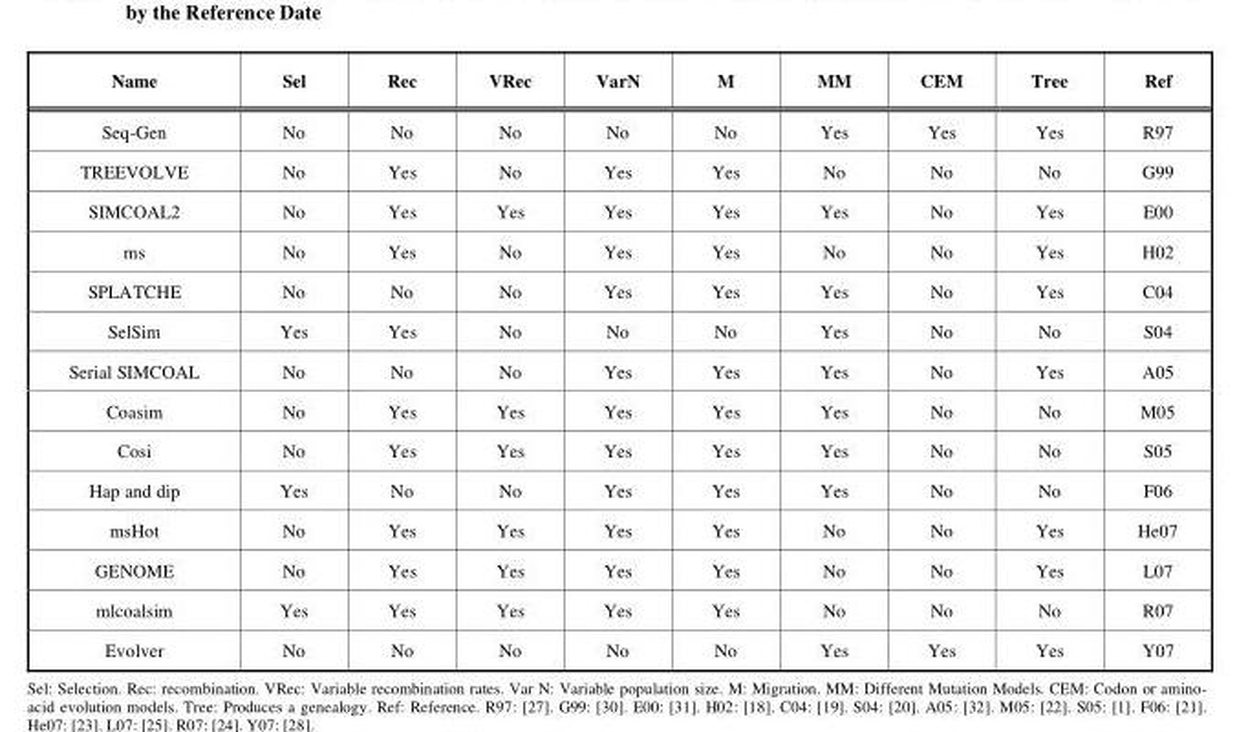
<table><thead><tr><td>Name</td><td>Sel</td><td>Rec</td><td>VRec</td><td>VarN</td><td>M</td><td>MM</td><td>CEM</td><td>Tree</td><td>Ref</td></tr></thead><tbody><tr><td>Seq-Gen</td><td>No</td><td>No</td><td>No</td><td>No</td><td>No</td><td>Yes</td><td>Yes</td><td>Yes</td><td>R97</td></tr><tr><td>TREEVOLVE</td><td>No</td><td>Yes</td><td>No</td><td>Yes</td><td>Yes</td><td>No</td><td>No</td><td>No</td><td>G99</td></tr><tr><td>SIMCOAL2</td><td>No</td><td>Yes</td><td>Yes</td><td>Yes</td><td>Yes</td><td>Yes</td><td>No</td><td>Yes</td><td>E00</td></tr><tr><td>ms</td><td>No</td><td>Yes</td><td>No</td><td>Yes</td><td>Yes</td><td>No</td><td>No</td><td>Yes</td><td>H02</td></tr><tr><td>SPLATCHE</td><td>No</td><td>No</td><td>No</td><td>Yes</td><td>Yes</td><td>Yes</td><td>No</td><td>Yes</td><td>C04</td></tr><tr><td>SelSim</td><td>Yes</td><td>Yes</td><td>No</td><td>No</td><td>No</td><td>Yes</td><td>No</td><td>No</td><td>S04</td></tr><tr><td>Serial SIMCOAL</td><td>No</td><td>No</td><td>No</td><td>Yes</td><td>Yes</td><td>Yes</td><td>No</td><td>Yes</td><td>A05</td></tr><tr><td>Coasim</td><td>No</td><td>Yes</td><td>Yes</td><td>Yes</td><td>Yes</td><td>Yes</td><td>No</td><td>No</td><td>M05</td></tr><tr><td>Cosi</td><td>No</td><td>Yes</td><td>Yes</td><td>Yes</td><td>Yes</td><td>Yes</td><td>No</td><td>No</td><td>S05</td></tr><tr><td>Hap and dip</td><td>Yes</td><td>No</td><td>No</td><td>Yes</td><td>Yes</td><td>Yes</td><td>No</td><td>No</td><td>F06</td></tr><tr><td>msHot</td><td>No</td><td>Yes</td><td>Yes</td><td>Yes</td><td>Yes</td><td>No</td><td>No</td><td>Yes</td><td>He07</td></tr><tr><td>GENOME</td><td>No</td><td>Yes</td><td>Yes</td><td>Yes</td><td>Yes</td><td>No</td><td>No</td><td>Yes</td><td>L07</td></tr><tr><td>mlcoalsim</td><td>Yes</td><td>Yes</td><td>Yes</td><td>Yes</td><td>Yes</td><td>No</td><td>No</td><td>No</td><td>R07</td></tr><tr><td>Evolver</td><td>No</td><td>No</td><td>No</td><td>No</td><td>No</td><td>Yes</td><td>Yes</td><td>Yes</td><td>Y07</td></tr></tbody></table>